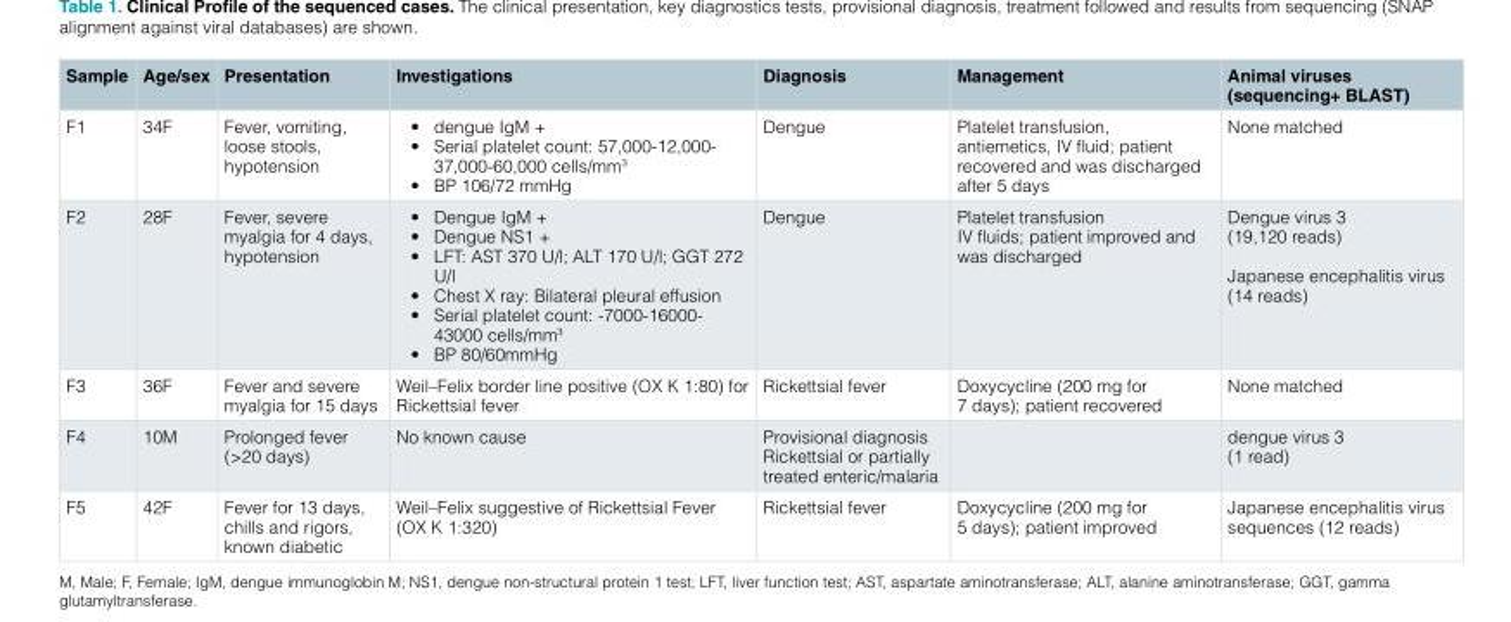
<table><thead><tr><td>Sample</td><td>Age/sex</td><td>Presentation</td><td>Investigations</td><td>Diagnosis</td><td>Management</td><td>Animal viruses (sequencing+ BLAST)</td></tr></thead><tbody><tr><td>F1</td><td>34F</td><td>Fever, vomiting, loose stools, hypotension</td><td>• dengue IgM + • Serial platelet count: 57,000-12,000- 37,000-60,000 cells/mm<sup>3</sup> • BP 106/72 mmHg</td><td>Dengue</td><td>Platelet transfusion, antiemetics, IV fluid; patient recovered and was discharged after 5 days</td><td>None matched</td></tr><tr><td>F2</td><td>28F</td><td>Fever, severe myalgia for 4 days, hypotension</td><td>• Dengue IgM + • Dengue NS1 + • LFT: AST 370 U/l; ALT 170 U/l; GGT 272 U/l • Chest X ray: Bilateral pleural effusion • Serial platelet count: -7000-16000- 43000 cells/mm<sup>3</sup> • BP 80/60mmHg</td><td>Dengue</td><td>Platelet transfusion IV fluids; patient improved and was discharged</td><td>Dengue virus 3 (19,120 reads) Japanese encephalitis virus (14 reads)</td></tr><tr><td>F3</td><td>36F</td><td>Fever and severe myalgia for 15 days</td><td>Weil–Felix border line positive (OX K 1:80) for Rickettsial fever</td><td>Rickettsial fever</td><td>Doxycycline (200 mg for 7 days); patient recovered</td><td>None matched</td></tr><tr><td>F4</td><td>10M</td><td>Prolonged fever (&gt;20 days)</td><td>No known cause</td><td>Provisional diagnosis Rickettsial or partially treated enteric/malaria</td><td></td><td>dengue virus 3 (1 read)</td></tr><tr><td>F5</td><td>42F</td><td>Fever for 13 days, chills and rigors, known diabetic</td><td>Weil–Felix suggestive of Rickettsial Fever (OX K 1:320)</td><td>Rickettsial fever</td><td>Doxycycline (200 mg for 5 days); patient improved</td><td>Japanese encephalitis virus sequences (12 reads)</td></tr></tbody></table>